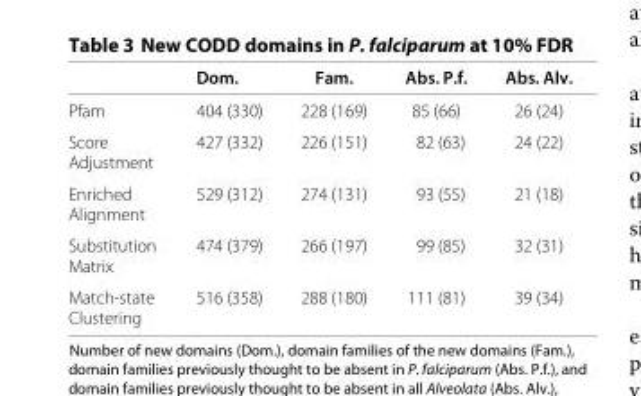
<table><thead><tr><td></td><td>Dom.</td><td>Fam.</td><td>Abs. P.f.</td><td>Abs. Alv.</td></tr></thead><tbody><tr><td>Pfam</td><td>404 (330)</td><td>228 (169)</td><td>85 (66)</td><td>26 (24)</td></tr><tr><td>Score Adjustment</td><td>427 (332)</td><td>226 (151)</td><td>82 (63)</td><td>24 (22)</td></tr><tr><td>Enriched Alignment</td><td>529 (312)</td><td>274 (131)</td><td>93 (55)</td><td>21 (18)</td></tr><tr><td>Substitution Matrix</td><td>474 (379)</td><td>266 (197)</td><td>99 (85)</td><td>32 (31)</td></tr><tr><td>Match-state Clustering</td><td>516 (358)</td><td>288 (180)</td><td>111 (81)</td><td>39 (34)</td></tr></tbody></table>